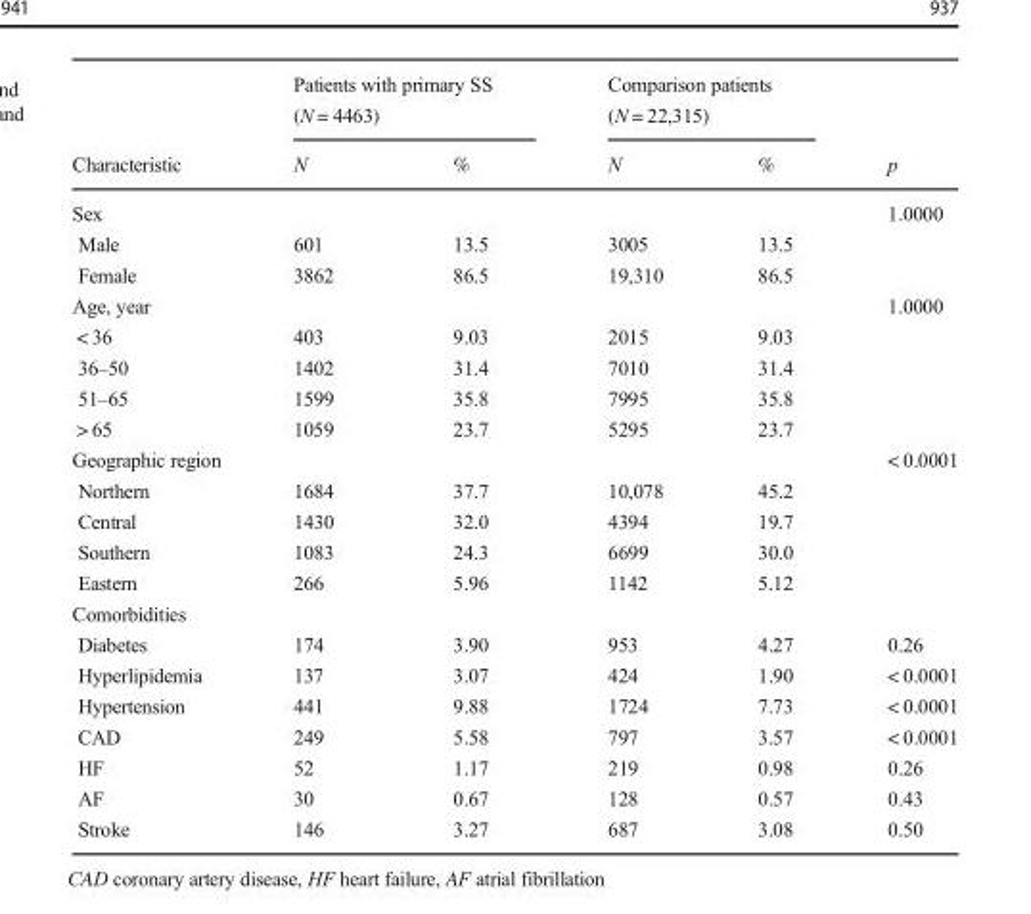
<table><thead><tr><td rowspan="2">Characteristic</td><td colspan="2">Patients with primary SS (N = 4463)</td><td colspan="2">Comparison patients (N = 22,315)</td><td rowspan="2">p</td></tr><tr><td>N</td><td>%</td><td>N</td><td>%</td></tr></thead><tbody><tr><td>Sex</td><td></td><td></td><td></td><td></td><td>1.0000</td></tr><tr><td>Male</td><td>601</td><td>13.5</td><td>3005</td><td>13.5</td><td></td></tr><tr><td>Female</td><td>3862</td><td>86.5</td><td>19,310</td><td>86.5</td><td></td></tr><tr><td>Age, year</td><td></td><td></td><td></td><td></td><td>1.0000</td></tr><tr><td>&lt; 36</td><td>403</td><td>9.03</td><td>2015</td><td>9.03</td><td></td></tr><tr><td>36–50</td><td>1402</td><td>31.4</td><td>7010</td><td>31.4</td><td></td></tr><tr><td>51–65</td><td>1599</td><td>35.8</td><td>7995</td><td>35.8</td><td></td></tr><tr><td>&gt; 65</td><td>1059</td><td>23.7</td><td>5295</td><td>23.7</td><td></td></tr><tr><td>Geographic region</td><td></td><td></td><td></td><td></td><td>&lt; 0.0001</td></tr><tr><td>Northern</td><td>1684</td><td>37.7</td><td>10,078</td><td>45.2</td><td></td></tr><tr><td>Central</td><td>1430</td><td>32.0</td><td>4394</td><td>19.7</td><td></td></tr><tr><td>Southern</td><td>1083</td><td>24.3</td><td>6699</td><td>30.0</td><td></td></tr><tr><td>Eastern</td><td>266</td><td>5.96</td><td>1142</td><td>5.12</td><td></td></tr><tr><td colspan="6">Comorbidities</td></tr><tr><td>Diabetes</td><td>174</td><td>3.90</td><td>953</td><td>4.27</td><td>0.26</td></tr><tr><td>Hyperlipidemia</td><td>137</td><td>3.07</td><td>424</td><td>1.90</td><td>&lt; 0.0001</td></tr><tr><td>Hypertension</td><td>441</td><td>9.88</td><td>1724</td><td>7.73</td><td>&lt; 0.0001</td></tr><tr><td>CAD</td><td>249</td><td>5.58</td><td>797</td><td>3.57</td><td>&lt; 0.0001</td></tr><tr><td>HF</td><td>52</td><td>1.17</td><td>219</td><td>0.98</td><td>0.26</td></tr><tr><td>AF</td><td>30</td><td>0.67</td><td>128</td><td>0.57</td><td>0.43</td></tr><tr><td>Stroke</td><td>146</td><td>3.27</td><td>687</td><td>3.08</td><td>0.50</td></tr></tbody></table>